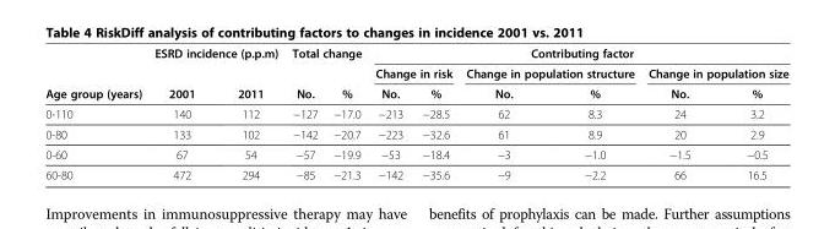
<table><thead><tr><td rowspan="3">Age group (years)</td><td colspan="2">ESRD incidence (p.p.m)</td><td colspan="2">Total change</td><td colspan="6">Contributing factor</td></tr><tr><td rowspan="2">2001</td><td rowspan="2">2011</td><td rowspan="2">No.</td><td rowspan="2">%</td><td colspan="2">Change in risk</td><td colspan="2">Change in population structure</td><td colspan="2">Change in population size</td></tr><tr><td>No.</td><td>%</td><td>No.</td><td>%</td><td>No.</td><td>%</td></tr></thead><tbody><tr><td>0-110</td><td>140</td><td>112</td><td>−127</td><td>−17.0</td><td>−213</td><td>−28.5</td><td>62</td><td>8.3</td><td>24</td><td>3.2</td></tr><tr><td>0-80</td><td>133</td><td>102</td><td>−142</td><td>−20.7</td><td>−223</td><td>−32.6</td><td>61</td><td>8.9</td><td>20</td><td>2.9</td></tr><tr><td>0-60</td><td>67</td><td>54</td><td>−57</td><td>−19.9</td><td>−53</td><td>−18.4</td><td>−3</td><td>−1.0</td><td>−1.5</td><td>−0.5</td></tr><tr><td>60-80</td><td>472</td><td>294</td><td>−85</td><td>−21.3</td><td>−142</td><td>−35.6</td><td>−9</td><td>−2.2</td><td>66</td><td>16.5</td></tr></tbody></table>